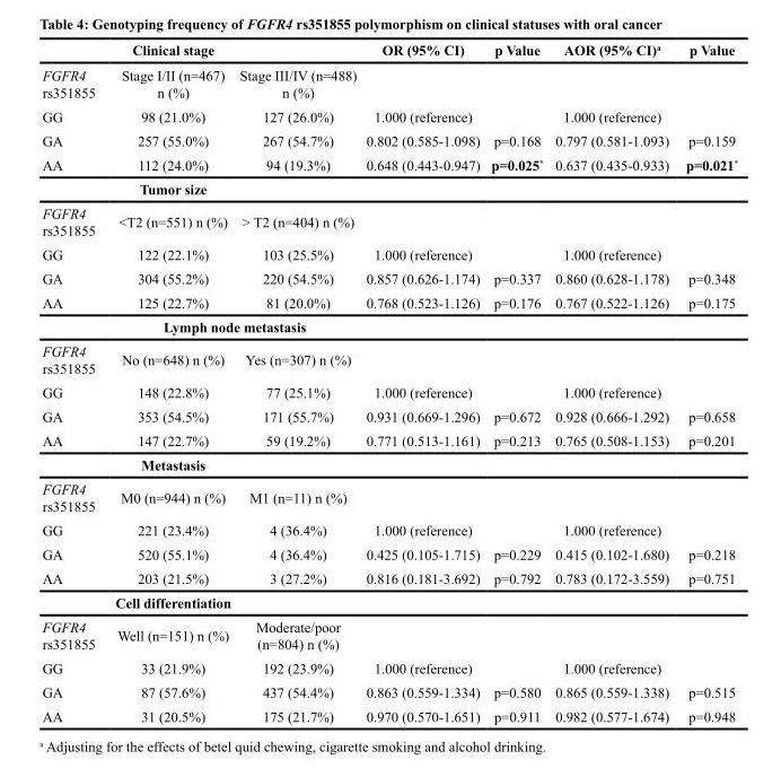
<table><thead><tr><td colspan="3">Clinical stage</td><td rowspan="2">OR (95% CI)</td><td rowspan="2">p Value</td><td rowspan="2">AOR (95% CI)<sup>a</sup></td><td rowspan="2">p Value</td></tr><tr><td>FGFR4 rs351855</td><td>Stage I/II (n=467) n (%)</td><td>Stage III/IV (n=488) n (%)</td></tr></thead><tbody><tr><td>GG</td><td>98 (21.0%)</td><td>127 (26.0%)</td><td>1.000 (reference)</td><td></td><td>1.000 (reference)</td><td></td></tr><tr><td>GA</td><td>257 (55.0%)</td><td>267 (54.7%)</td><td>0.802 (0.585-1.098)</td><td>p=0.168</td><td>0.797 (0.581-1.093)</td><td>p=0.159</td></tr><tr><td>AA</td><td>112 (24.0%)</td><td>94 (19.3%)</td><td>0.648 (0.443-0.947)</td><td>p=0.025*</td><td>0.637 (0.435-0.933)</td><td>p=0.021*</td></tr><tr><td colspan="7">Tumor size</td></tr><tr><td>FGFR4 rs351855</td><td>&lt;T2 (n=551) n (%)</td><td>&gt; T2 (n=404) n (%)</td><td></td><td></td><td></td><td></td></tr><tr><td>GG</td><td>122 (22.1%)</td><td>103 (25.5%)</td><td>1.000 (reference)</td><td></td><td>1.000 (reference)</td><td></td></tr><tr><td>GA</td><td>304 (55.2%)</td><td>220 (54.5%)</td><td>0.857 (0.626-1.174)</td><td>p=0.337</td><td>0.860 (0.628-1.178)</td><td>p=0.348</td></tr><tr><td>AA</td><td>125 (22.7%)</td><td>81 (20.0%)</td><td>0.768 (0.523-1.126)</td><td>p=0.176</td><td>0.767 (0.522-1.126)</td><td>p=0.175</td></tr><tr><td colspan="7">Lymph node metastasis</td></tr><tr><td>FGFR4 rs351855</td><td>No (n=648) n (%)</td><td>Yes (n=307) n (%)</td><td></td><td></td><td></td><td></td></tr><tr><td>GG</td><td>148 (22.8%)</td><td>77 (25.1%)</td><td>1.000 (reference)</td><td></td><td>1.000 (reference)</td><td></td></tr><tr><td>GA</td><td>353 (54.5%)</td><td>171 (55.7%)</td><td>0.931 (0.669-1.296)</td><td>p=0.672</td><td>0.928 (0.666-1.292)</td><td>p=0.658</td></tr><tr><td>AA</td><td>147 (22.7%)</td><td>59 (19.2%)</td><td>0.771 (0.513-1.161)</td><td>p=0.213</td><td>0.765 (0.508-1.153)</td><td>p=0.201</td></tr><tr><td colspan="7">Metastasis</td></tr><tr><td>FGFR4 rs351855</td><td>M0 (n=944) n (%)</td><td>M1 (n=11) n (%)</td><td></td><td></td><td></td><td></td></tr><tr><td>GG</td><td>221 (23.4%)</td><td>4 (36.4%)</td><td>1.000 (reference)</td><td></td><td>1.000 (reference)</td><td></td></tr><tr><td>GA</td><td>520 (55.1%)</td><td>4 (36.4%)</td><td>0.425 (0.105-1.715)</td><td>p=0.229</td><td>0.415 (0.102-1.680)</td><td>p=0.218</td></tr><tr><td>AA</td><td>203 (21.5%)</td><td>3 (27.2%)</td><td>0.816 (0.181-3.692)</td><td>p=0.792</td><td>0.783 (0.172-3.559)</td><td>p=0.751</td></tr><tr><td colspan="7">Cell differentiation</td></tr><tr><td>FGFR4 rs351855</td><td>Well (n=151) n (%)</td><td>Moderate/poor (n=804) n (%)</td><td></td><td></td><td></td><td></td></tr><tr><td>GG</td><td>33 (21.9%)</td><td>192 (23.9%)</td><td>1.000 (reference)</td><td></td><td>1.000 (reference)</td><td></td></tr><tr><td>GA</td><td>87 (57.6%)</td><td>437 (54.4%)</td><td>0.863 (0.559-1.334)</td><td>p=0.580</td><td>0.865 (0.559-1.338)</td><td>p=0.515</td></tr><tr><td>AA</td><td>31 (20.5%)</td><td>175 (21.7%)</td><td>0.970 (0.570-1.651)</td><td>p=0.911</td><td>0.982 (0.577-1.674)</td><td>p=0.948</td></tr></tbody></table>